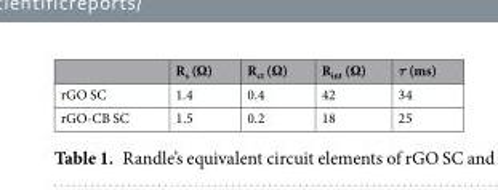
<table><thead><tr><td></td><td>R<sub>s</sub> (Ω)</td><td>R<sub>ct</sub> (Ω)</td><td>R<sub>int</sub> (Ω)</td><td>τ (ms)</td></tr></thead><tbody><tr><td>rGO SC</td><td>1.4</td><td>0.4</td><td>42</td><td>34</td></tr><tr><td>rGO-CB SC</td><td>1.5</td><td>0.2</td><td>18</td><td>25</td></tr></tbody></table>